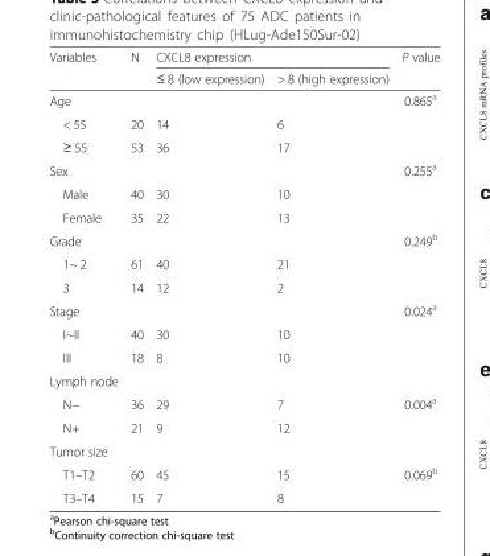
<table><thead><tr><td rowspan="2">Variables</td><td rowspan="2">N</td><td colspan="2">CXCL8 expression</td><td rowspan="2">P value</td></tr><tr><td>≤ 8 (low expression)</td><td>&gt; 8 (high expression)</td></tr></thead><tbody><tr><td>Age</td><td></td><td></td><td></td><td>0.865<sup>a</sup></td></tr><tr><td>&lt; 55</td><td>20</td><td>14</td><td>6</td><td></td></tr><tr><td>≥ 55</td><td>53</td><td>36</td><td>17</td><td></td></tr><tr><td>Sex</td><td></td><td></td><td></td><td>0.255<sup>a</sup></td></tr><tr><td>Male</td><td>40</td><td>30</td><td>10</td><td></td></tr><tr><td>Female</td><td>35</td><td>22</td><td>13</td><td></td></tr><tr><td>Grade</td><td></td><td></td><td></td><td>0.249<sup>b</sup></td></tr><tr><td>1~ 2</td><td>61</td><td>40</td><td>21</td><td></td></tr><tr><td>3</td><td>14</td><td>12</td><td>2</td><td></td></tr><tr><td>Stage</td><td></td><td></td><td></td><td>0.024<sup>a</sup></td></tr><tr><td>I~II</td><td>40</td><td>30</td><td>10</td><td></td></tr><tr><td>III</td><td>18</td><td>8</td><td>10</td><td></td></tr><tr><td colspan="5">Lymph node</td></tr><tr><td>N−</td><td>36</td><td>29</td><td>7</td><td>0.004<sup>a</sup></td></tr><tr><td>N+</td><td>21</td><td>9</td><td>12</td><td></td></tr><tr><td colspan="5">Tumor size</td></tr><tr><td>T1–T2</td><td>60</td><td>45</td><td>15</td><td>0.069<sup>b</sup></td></tr><tr><td>T3–T4</td><td>15</td><td>7</td><td>8</td><td></td></tr></tbody></table>